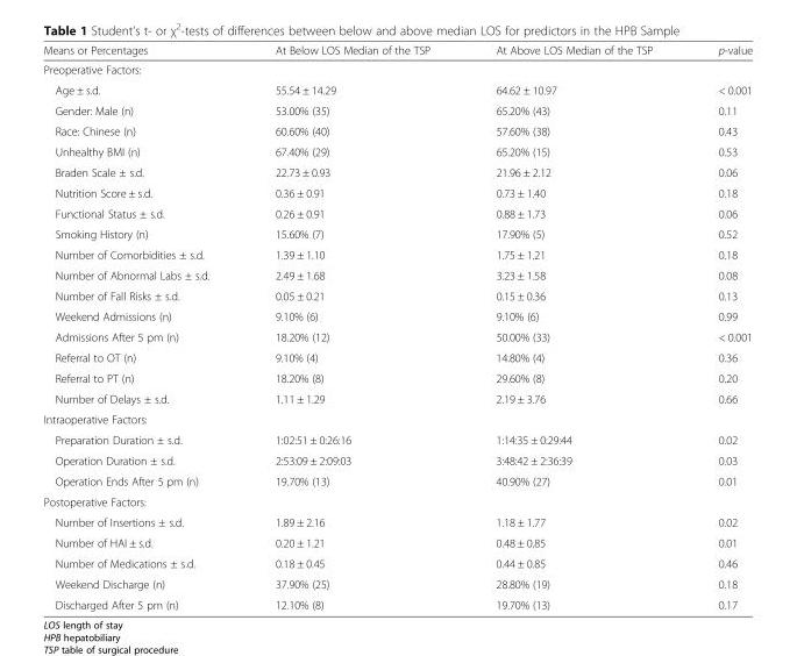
<table><thead><tr><td>Means or Percentages</td><td>At Below LOS Median of the TSP</td><td>At Above LOS Median of the TSP</td><td>p-value</td></tr></thead><tbody><tr><td colspan="4">Preoperative Factors:</td></tr><tr><td>Age ± s.d.</td><td>55.54 ± 14.29</td><td>64.62 ± 10.97</td><td>&lt; 0.001</td></tr><tr><td>Gender: Male (n)</td><td>53.00% (35)</td><td>65.20% (43)</td><td>0.11</td></tr><tr><td>Race: Chinese (n)</td><td>60.60% (40)</td><td>57.60% (38)</td><td>0.43</td></tr><tr><td>Unhealthy BMI (n)</td><td>67.40% (29)</td><td>65.20% (15)</td><td>0.53</td></tr><tr><td>Braden Scale ± s.d.</td><td>22.73 ± 0.93</td><td>21.96 ± 2.12</td><td>0.06</td></tr><tr><td>Nutrition Score ± s.d.</td><td>0.36 ± 0.91</td><td>0.73 ± 1.40</td><td>0.18</td></tr><tr><td>Functional Status ± s.d.</td><td>0.26 ± 0.91</td><td>0.88 ± 1.73</td><td>0.06</td></tr><tr><td>Smoking History (n)</td><td>15.60% (7)</td><td>17.90% (5)</td><td>0.52</td></tr><tr><td>Number of Comorbidities ± s.d.</td><td>1.39 ± 1.10</td><td>1.75 ± 1.21</td><td>0.18</td></tr><tr><td>Number of Abnormal Labs ± s.d.</td><td>2.49 ± 1.68</td><td>3.23 ± 1.58</td><td>0.08</td></tr><tr><td>Number of Fall Risks ± s.d.</td><td>0.05 ± 0.21</td><td>0.15 ± 0.36</td><td>0.13</td></tr><tr><td>Weekend Admissions (n)</td><td>9.10% (6)</td><td>9.10% (6)</td><td>0.99</td></tr><tr><td>Admissions After 5 pm (n)</td><td>18.20% (12)</td><td>50.00% (33)</td><td>&lt; 0.001</td></tr><tr><td>Referral to OT (n)</td><td>9.10% (4)</td><td>14.80% (4)</td><td>0.36</td></tr><tr><td>Referral to PT (n)</td><td>18.20% (8)</td><td>29.60% (8)</td><td>0.20</td></tr><tr><td>Number of Delays ± s.d.</td><td>1.11 ± 1.29</td><td>2.19 ± 3.76</td><td>0.66</td></tr><tr><td colspan="4">Intraoperative Factors:</td></tr><tr><td>Preparation Duration ± s.d.</td><td>1:02:51 ± 0:26:16</td><td>1:14:35 ± 0:29:44</td><td>0.02</td></tr><tr><td>Operation Duration ± s.d.</td><td>2:53:09 ± 2:09:03</td><td>3:48:42 ± 2:36:39</td><td>0.03</td></tr><tr><td>Operation Ends After 5 pm (n)</td><td>19.70% (13)</td><td>40.90% (27)</td><td>0.01</td></tr><tr><td colspan="4">Postoperative Factors:</td></tr><tr><td>Number of Insertions ± s.d.</td><td>1.89 ± 2.16</td><td>1.18 ± 1.77</td><td>0.02</td></tr><tr><td>Number of HAI ± s.d.</td><td>0.20 ± 1.21</td><td>0.48 ± 0.85</td><td>0.01</td></tr><tr><td>Number of Medications ± s.d.</td><td>0.18 ± 0.45</td><td>0.44 ± 0.85</td><td>0.46</td></tr><tr><td>Weekend Discharge (n)</td><td>37.90% (25)</td><td>28.80% (19)</td><td>0.18</td></tr><tr><td>Discharged After 5 pm (n)</td><td>12.10% (8)</td><td>19.70% (13)</td><td>0.17</td></tr></tbody></table>